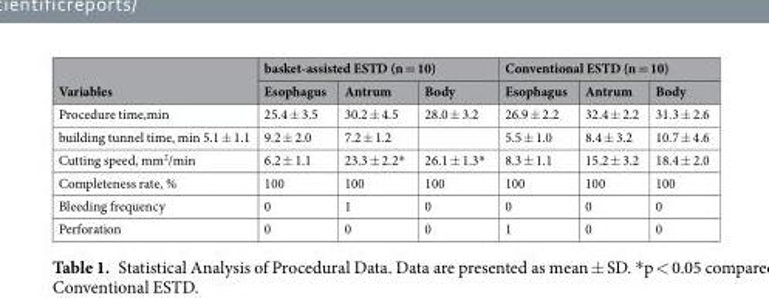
<table><thead><tr><td rowspan="2">Variables</td><td colspan="3">basket-assisted ESTD (n = 10)</td><td colspan="3">Conventional ESTD (n = 10)</td></tr><tr><td>Esophagus</td><td>Antrum</td><td>Body</td><td>Esophagus</td><td>Antrum</td><td>Body</td></tr></thead><tbody><tr><td>Procedure time,min</td><td>25.4 ± 3.5</td><td>30.2 ± 4.5</td><td>28.0 ± 3.2</td><td>26.9 ± 2.2</td><td>32.4 ± 2.2</td><td>31.3 ± 2.6</td></tr><tr><td>building tunnel time, min 5.1 ± 1.1</td><td>9.2 ± 2.0</td><td>7.2 ± 1.2</td><td></td><td>5.5 ± 1.0</td><td>8.4 ± 3.2</td><td>10.7 ± 4.6</td></tr><tr><td>Cutting speed, mm<sup>2</sup>/min</td><td>6.2 ± 1.1</td><td>23.3 ± 2.2*</td><td>26.1 ± 1.3*</td><td>8.3 ± 1.1</td><td>15.2 ± 3.2</td><td>18.4 ± 2.0</td></tr><tr><td>Completeness rate, %</td><td>100</td><td>100</td><td>100</td><td>100</td><td>100</td><td>100</td></tr><tr><td>Bleeding frequency</td><td>0</td><td>1</td><td>0</td><td>0</td><td>0</td><td>0</td></tr><tr><td>Perforation</td><td>0</td><td>0</td><td>0</td><td>1</td><td>0</td><td>0</td></tr></tbody></table>